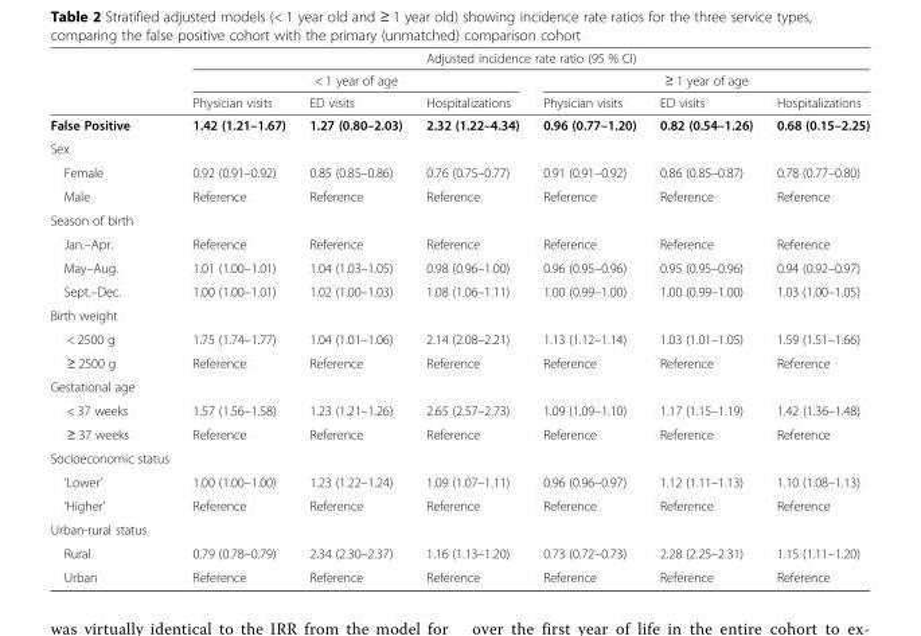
<table><thead><tr><td rowspan="3"></td><td colspan="6">Adjusted incidence rate ratio (95 % CI)</td></tr><tr><td colspan="3">&lt; 1 year of age</td><td colspan="3">≥ 1 year of age</td></tr><tr><td>Physician visits</td><td>ED visits</td><td>Hospitalizations</td><td>Physician visits</td><td>ED visits</td><td>Hospitalizations</td></tr></thead><tbody><tr><td>False Positive</td><td>1.42 (1.21–1.67)</td><td>1.27 (0.80–2.03)</td><td>2.32 (1.22–4.34)</td><td>0.96 (0.77–1.20)</td><td>0.82 (0.54–1.26)</td><td>0.68 (0.15–2.25)</td></tr><tr><td colspan="7">Sex</td></tr><tr><td>Female</td><td>0.92 (0.91–0.92)</td><td>0.85 (0.85–0.86)</td><td>0.76 (0.75–0.77)</td><td>0.91 (0.91–0.92)</td><td>0.86 (0.85–0.87)</td><td>0.78 (0.77–0.80)</td></tr><tr><td>Male</td><td>Reference</td><td>Reference</td><td>Reference</td><td>Reference</td><td>Reference</td><td>Reference</td></tr><tr><td colspan="7">Season of birth</td></tr><tr><td>Jan.–Apr.</td><td>Reference</td><td>Reference</td><td>Reference</td><td>Reference</td><td>Reference</td><td>Reference</td></tr><tr><td>May–Aug.</td><td>1.01 (1.00–1.01)</td><td>1.04 (1.03–1.05)</td><td>0.98 (0.96–1.00)</td><td>0.96 (0.95–0.96)</td><td>0.95 (0.95–0.96)</td><td>0.94 (0.92–0.97)</td></tr><tr><td>Sept.–Dec.</td><td>1.00 (1.00–1.01)</td><td>1.02 (1.00–1.03)</td><td>1.08 (1.06–1.11)</td><td>1.00 (0.99–1.00)</td><td>1.00 (0.99–1.00)</td><td>1.03 (1.00–1.05)</td></tr><tr><td colspan="7">Birth weight</td></tr><tr><td>&lt; 2500 g</td><td>1.75 (1.74–1.77)</td><td>1.04 (1.01–1.06)</td><td>2.14 (2.08–2.21)</td><td>1.13 (1.12–1.14)</td><td>1.03 (1.01–1.05)</td><td>1.59 (1.51–1.66)</td></tr><tr><td>≥ 2500 g</td><td>Reference</td><td>Reference</td><td>Reference</td><td>Reference</td><td>Reference</td><td>Reference</td></tr><tr><td colspan="7">Gestational age</td></tr><tr><td>&lt; 37 weeks</td><td>1.57 (1.56–1.58)</td><td>1.23 (1.21–1.26)</td><td>2.65 (2.57–2.73)</td><td>1.09 (1.09–1.10)</td><td>1.17 (1.15–1.19)</td><td>1.42 (1.36–1.48)</td></tr><tr><td>≥ 37 weeks</td><td>Reference</td><td>Reference</td><td>Reference</td><td>Reference</td><td>Reference</td><td>Reference</td></tr><tr><td colspan="7">Socioeconomic status</td></tr><tr><td>‘Lower’</td><td>1.00 (1.00–1.00)</td><td>1.23 (1.22–1.24)</td><td>1.09 (1.07–1.11)</td><td>0.96 (0.96–0.97)</td><td>1.12 (1.11–1.13)</td><td>1.10 (1.08–1.13)</td></tr><tr><td>‘Higher’</td><td>Reference</td><td>Reference</td><td>Reference</td><td>Reference</td><td>Reference</td><td>Reference</td></tr><tr><td colspan="7">Urban-rural status</td></tr><tr><td>Rural</td><td>0.79 (0.78–0.79)</td><td>2.34 (2.30–2.37)</td><td>1.16 (1.13–1.20)</td><td>0.73 (0.72–0.73)</td><td>2.28 (2.25–2.31)</td><td>1.15 (1.11–1.20)</td></tr><tr><td>Urban</td><td>Reference</td><td>Reference</td><td>Reference</td><td>Reference</td><td>Reference</td><td>Reference</td></tr></tbody></table>